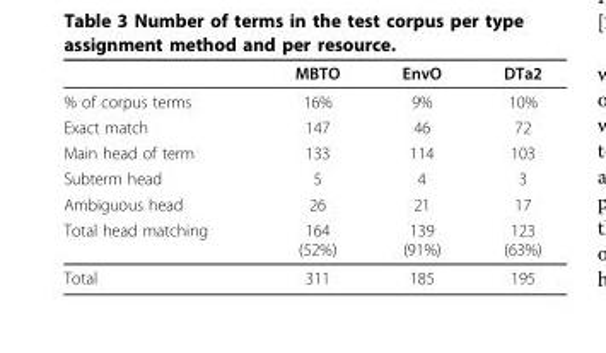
<table><thead><tr><td></td><td>MBTO</td><td>EnvO</td><td>DTa2</td></tr></thead><tbody><tr><td>% of corpus terms</td><td>16%</td><td>9%</td><td>10%</td></tr><tr><td>Exact match</td><td>147</td><td>46</td><td>72</td></tr><tr><td>Main head of term</td><td>133</td><td>114</td><td>103</td></tr><tr><td>Subterm head</td><td>5</td><td>4</td><td>3</td></tr><tr><td>Ambiguous head</td><td>26</td><td>21</td><td>17</td></tr><tr><td>Total head matching</td><td>164 (52%)</td><td>139 (91%)</td><td>123 (63%)</td></tr><tr><td>Total</td><td>311</td><td>185</td><td>195</td></tr></tbody></table>